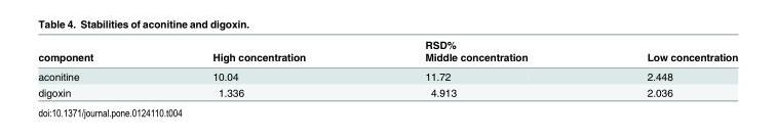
<table><thead><tr><td rowspan="2">component</td><td rowspan="2">High concentration</td><td rowspan="2">RSD% Middle concentration</td><td rowspan="2">Low concentration</td></tr><tr></tr></thead><tbody><tr><td>aconitine</td><td>10.04</td><td>11.72</td><td>2.448</td></tr><tr><td>digoxin</td><td>1.336</td><td>4.913</td><td>2.036</td></tr></tbody></table>